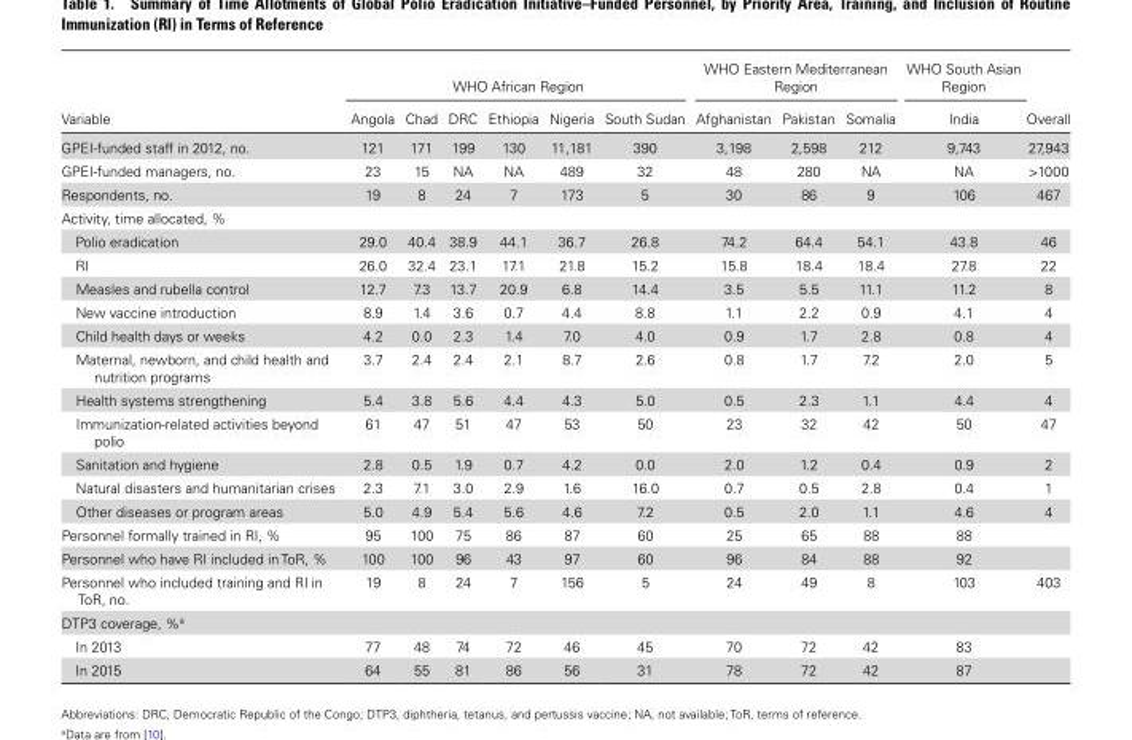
<table><thead><tr><td rowspan="2">Variable</td><td colspan="6">WHO African Region</td><td colspan="3">WHO Eastern Mediterranean Region</td><td rowspan="2">WHO South Asian Region India</td><td rowspan="2">Overall</td></tr><tr><td>Angola</td><td>Chad</td><td>DRC</td><td>Ethiopia</td><td>Nigeria</td><td>South Sudan</td><td>Afghanistan</td><td>Pakistan</td><td>Somalia</td></tr></thead><tbody><tr><td>GPEI-funded staff in 2012, no.</td><td>121</td><td>171</td><td>199</td><td>130</td><td>11,181</td><td>390</td><td>3,198</td><td>2,598</td><td>212</td><td>9,743</td><td>27,943</td></tr><tr><td>GPEI-funded managers, no.</td><td>23</td><td>15</td><td>NA</td><td>NA</td><td>489</td><td>32</td><td>48</td><td>280</td><td>NA</td><td>NA</td><td>&gt;1000</td></tr><tr><td>Respondents, no.</td><td>19</td><td>8</td><td>24</td><td>7</td><td>173</td><td>5</td><td>30</td><td>86</td><td>9</td><td>106</td><td>467</td></tr><tr><td colspan="12">Activity, time allocated, %</td></tr><tr><td>Polio eradication</td><td>29.0</td><td>40.4</td><td>38.9</td><td>44.1</td><td>36.7</td><td>26.8</td><td>74.2</td><td>64.4</td><td>54.1</td><td>43.8</td><td>46</td></tr><tr><td>RI</td><td>26.0</td><td>32.4</td><td>23.1</td><td>17.1</td><td>21.8</td><td>15.2</td><td>15.8</td><td>18.4</td><td>18.4</td><td>27.8</td><td>22</td></tr><tr><td>Measles and rubella control</td><td>12.7</td><td>7.3</td><td>13.7</td><td>20.9</td><td>6.8</td><td>14.4</td><td>3.5</td><td>5.5</td><td>11.1</td><td>11.2</td><td>8</td></tr><tr><td>New vaccine introduction</td><td>8.9</td><td>1.4</td><td>3.6</td><td>0.7</td><td>4.4</td><td>8.8</td><td>1.1</td><td>2.2</td><td>0.9</td><td>4.1</td><td>4</td></tr><tr><td>Child health days or weeks</td><td>4.2</td><td>0.0</td><td>2.3</td><td>1.4</td><td>7.0</td><td>4.0</td><td>0.9</td><td>1.7</td><td>2.8</td><td>0.8</td><td>4</td></tr><tr><td>Maternal, newborn, and child health and nutrition programs</td><td>3.7</td><td>2.4</td><td>2.4</td><td>2.1</td><td>8.7</td><td>2.6</td><td>0.8</td><td>1.7</td><td>7.2</td><td>2.0</td><td>5</td></tr><tr><td>Health systems strengthening</td><td>5.4</td><td>3.8</td><td>5.6</td><td>4.4</td><td>4.3</td><td>5.0</td><td>0.5</td><td>2.3</td><td>1.1</td><td>4.4</td><td>4</td></tr><tr><td>Immunization-related activities beyond polio</td><td>61</td><td>47</td><td>51</td><td>47</td><td>53</td><td>50</td><td>23</td><td>32</td><td>42</td><td>50</td><td>47</td></tr><tr><td>Sanitation and hygiene</td><td>2.8</td><td>0.5</td><td>1.9</td><td>0.7</td><td>4.2</td><td>0.0</td><td>2.0</td><td>1.2</td><td>0.4</td><td>0.9</td><td>2</td></tr><tr><td>Natural disasters and humanitarian crises</td><td>2.3</td><td>7.1</td><td>3.0</td><td>2.9</td><td>1.6</td><td>16.0</td><td>0.7</td><td>0.5</td><td>2.8</td><td>0.4</td><td>1</td></tr><tr><td>Other diseases or program areas</td><td>5.0</td><td>4.9</td><td>5.4</td><td>5.6</td><td>4.6</td><td>7.2</td><td>0.5</td><td>2.0</td><td>1.1</td><td>4.6</td><td>4</td></tr><tr><td>Personnel formally trained in RI, %</td><td>95</td><td>100</td><td>75</td><td>86</td><td>87</td><td>60</td><td>25</td><td>65</td><td>88</td><td>88</td><td></td></tr><tr><td>Personnel who have RI included in ToR, %</td><td>100</td><td>100</td><td>96</td><td>43</td><td>97</td><td>60</td><td>96</td><td>84</td><td>88</td><td>92</td><td></td></tr><tr><td>Personnel who included training and RI in ToR, no.</td><td>19</td><td>8</td><td>24</td><td>7</td><td>156</td><td>5</td><td>24</td><td>49</td><td>8</td><td>103</td><td>403</td></tr><tr><td colspan="12">DTP3 coverage, %<sup>a</sup></td></tr><tr><td>In 2013</td><td>77</td><td>48</td><td>74</td><td>72</td><td>46</td><td>45</td><td>70</td><td>72</td><td>42</td><td>83</td><td></td></tr><tr><td>In 2015</td><td>64</td><td>55</td><td>81</td><td>86</td><td>56</td><td>31</td><td>78</td><td>72</td><td>42</td><td>87</td><td></td></tr></tbody></table>